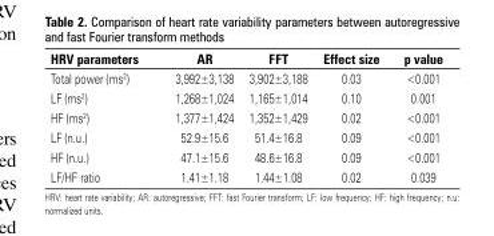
<table><thead><tr><td>HRV parameters</td><td>AR</td><td>FFT</td><td>Effect size</td><td>p value</td></tr></thead><tbody><tr><td>Total power (ms<sup>2</sup>)</td><td>3,992±3,138</td><td>3,902±3,188</td><td>0.03</td><td>&lt;0.001</td></tr><tr><td>LF (ms<sup>2</sup>)</td><td>1,268±1,024</td><td>1,165±1,014</td><td>0.10</td><td>0.001</td></tr><tr><td>HF (ms<sup>2</sup>)</td><td>1,377±1,424</td><td>1,352±1,429</td><td>0.02</td><td>&lt;0.001</td></tr><tr><td>LF (n.u.)</td><td>52.9±15.6</td><td>51.4±16.8</td><td>0.09</td><td>&lt;0.001</td></tr><tr><td>HF (n.u.)</td><td>47.1±15.6</td><td>48.6±16.8</td><td>0.09</td><td>&lt;0.001</td></tr><tr><td>LF/HF ratio</td><td>1.41±1.18</td><td>1.44±1.08</td><td>0.02</td><td>0.039</td></tr></tbody></table>